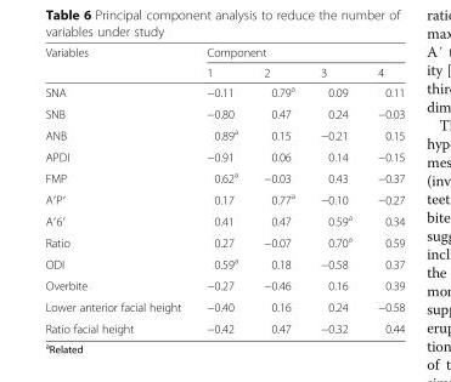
<table><thead><tr><td rowspan="2">Variables</td><td colspan="4">Component</td></tr><tr><td>1</td><td>2</td><td>3</td><td>4</td></tr></thead><tbody><tr><td>SNA</td><td>−0.11</td><td>0.79<sup>a</sup></td><td>0.09</td><td>0.11</td></tr><tr><td>SNB</td><td>−0.80</td><td>0.47</td><td>0.24</td><td>−0.03</td></tr><tr><td>ANB</td><td>0.89<sup>a</sup></td><td>0.15</td><td>−0.21</td><td>0.15</td></tr><tr><td>APDI</td><td>−0.91</td><td>0.06</td><td>0.14</td><td>−0.15</td></tr><tr><td>FMP</td><td>0.62<sup>a</sup></td><td>−0.03</td><td>0.43</td><td>−0.37</td></tr><tr><td>A′P′</td><td>0.17</td><td>0.77<sup>a</sup></td><td>−0.10</td><td>−0.27</td></tr><tr><td>A′6′</td><td>0.41</td><td>0.47</td><td>0.59<sup>a</sup></td><td>0.34</td></tr><tr><td>Ratio</td><td>0.27</td><td>−0.07</td><td>0.70<sup>a</sup></td><td>0.59</td></tr><tr><td>ODI</td><td>0.59<sup>a</sup></td><td>0.18</td><td>−0.58</td><td>0.37</td></tr><tr><td>Overbite</td><td>−0.27</td><td>−0.46</td><td>0.16</td><td>0.39</td></tr><tr><td>Lower anterior facial height</td><td>−0.40</td><td>0.16</td><td>0.24</td><td>−0.58</td></tr><tr><td>Ratio facial height</td><td>−0.42</td><td>0.47</td><td>−0.32</td><td>0.44</td></tr></tbody></table>